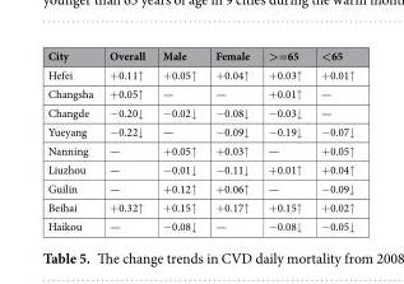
<table><thead><tr><td>City</td><td>Overall</td><td>Male</td><td>Female</td><td>&gt;=65</td><td>&lt;65</td></tr></thead><tbody><tr><td>Hefei</td><td>+0.11↑</td><td>+0.05↑</td><td>+0.04↑</td><td>+0.03↑</td><td>+0.01↑</td></tr><tr><td>Changsha</td><td>+0.05↑</td><td>—</td><td>—</td><td>+0.01↑</td><td>—</td></tr><tr><td>Changde</td><td>−0.20↓</td><td>−0.02↓</td><td>−0.08↓</td><td>−0.03↓</td><td>—</td></tr><tr><td>Yueyang</td><td>−0.22↓</td><td>—</td><td>−0.09↓</td><td>−0.19↓</td><td>−0.07↓</td></tr><tr><td>Nanning</td><td>—</td><td>+0.05↑</td><td>+0.03↑</td><td>—</td><td>+0.05↑</td></tr><tr><td>Liuzhou</td><td>—</td><td>−0.01↓</td><td>−0.11↓</td><td>+0.01↑</td><td>+0.04↑</td></tr><tr><td>Guilin</td><td>—</td><td>+0.12↑</td><td>+0.06↑</td><td>—</td><td>−0.09↓</td></tr><tr><td>Beihai</td><td>+0.32↑</td><td>+0.15↑</td><td>+0.17↑</td><td>+0.15↑</td><td>+0.02↑</td></tr><tr><td>Haikou</td><td>—</td><td>−0.08↓</td><td>—</td><td>−0.08↓</td><td>−0.05↓</td></tr></tbody></table>